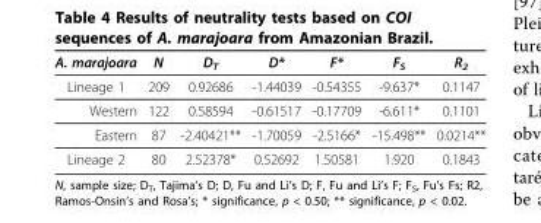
<table><thead><tr><td>A. marajoara</td><td>N</td><td>D<sub>T</sub></td><td>D*</td><td>F*</td><td>F<sub>S</sub></td><td>R<sub>2</sub></td></tr></thead><tbody><tr><td>Lineage 1</td><td>209</td><td>0.92686</td><td>-1.44039</td><td>-0.54355</td><td>-9.637*</td><td>0.1147</td></tr><tr><td>Western</td><td>122</td><td>0.58594</td><td>-0.61517</td><td>-0.17709</td><td>-6.611*</td><td>0.1101</td></tr><tr><td>Eastern</td><td>87</td><td>-2.40421**</td><td>-1.70059</td><td>-2.5166*</td><td>-15.498**</td><td>0.0214**</td></tr><tr><td>Lineage 2</td><td>80</td><td>2.52378*</td><td>0.52692</td><td>1.50581</td><td>1.920</td><td>0.1843</td></tr></tbody></table>